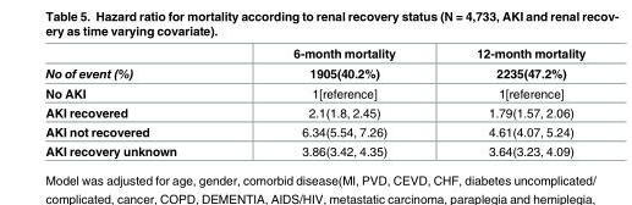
<table><thead><tr><td rowspan="2">No of event (%)</td><td rowspan="2">6-month mortality 1905(40.2%)</td><td rowspan="2">12-month mortality 2235(47.2%)</td></tr><tr></tr></thead><tbody><tr><td>No AKI</td><td>1[reference]</td><td>1[reference]</td></tr><tr><td>AKI recovered</td><td>2.1(1.8, 2.45)</td><td>1.79(1.57, 2.06)</td></tr><tr><td>AKI not recovered</td><td>6.34(5.54, 7.26)</td><td>4.61(4.07, 5.24)</td></tr><tr><td>AKI recovery unknown</td><td>3.86(3.42, 4.35)</td><td>3.64(3.23, 4.09)</td></tr></tbody></table>